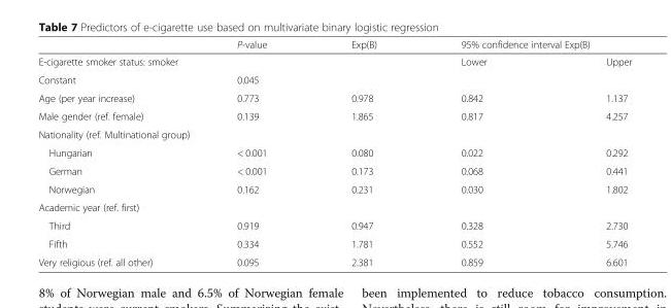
<table><thead><tr><td></td><td>P-value</td><td rowspan="2">Exp(B)</td><td colspan="2">95% confidence interval Exp(B)</td></tr><tr><td colspan="2">E-cigarette smoker status: smoker</td><td>Lower</td><td>Upper</td></tr></thead><tbody><tr><td>Constant</td><td>0.045</td><td></td><td></td><td></td></tr><tr><td>Age (per year increase)</td><td>0.773</td><td>0.978</td><td>0.842</td><td>1.137</td></tr><tr><td>Male gender (ref. female)</td><td>0.139</td><td>1.865</td><td>0.817</td><td>4.257</td></tr><tr><td colspan="5">Nationality (ref. Multinational group)</td></tr><tr><td>Hungarian</td><td>&lt; 0.001</td><td>0.080</td><td>0.022</td><td>0.292</td></tr><tr><td>German</td><td>&lt; 0.001</td><td>0.173</td><td>0.068</td><td>0.441</td></tr><tr><td>Norwegian</td><td>0.162</td><td>0.231</td><td>0.030</td><td>1.802</td></tr><tr><td colspan="5">Academic year (ref. first)</td></tr><tr><td>Third</td><td>0.919</td><td>0.947</td><td>0.328</td><td>2.730</td></tr><tr><td>Fifth</td><td>0.334</td><td>1.781</td><td>0.552</td><td>5.746</td></tr><tr><td>Very religious (ref. all other)</td><td>0.095</td><td>2.381</td><td>0.859</td><td>6.601</td></tr></tbody></table>